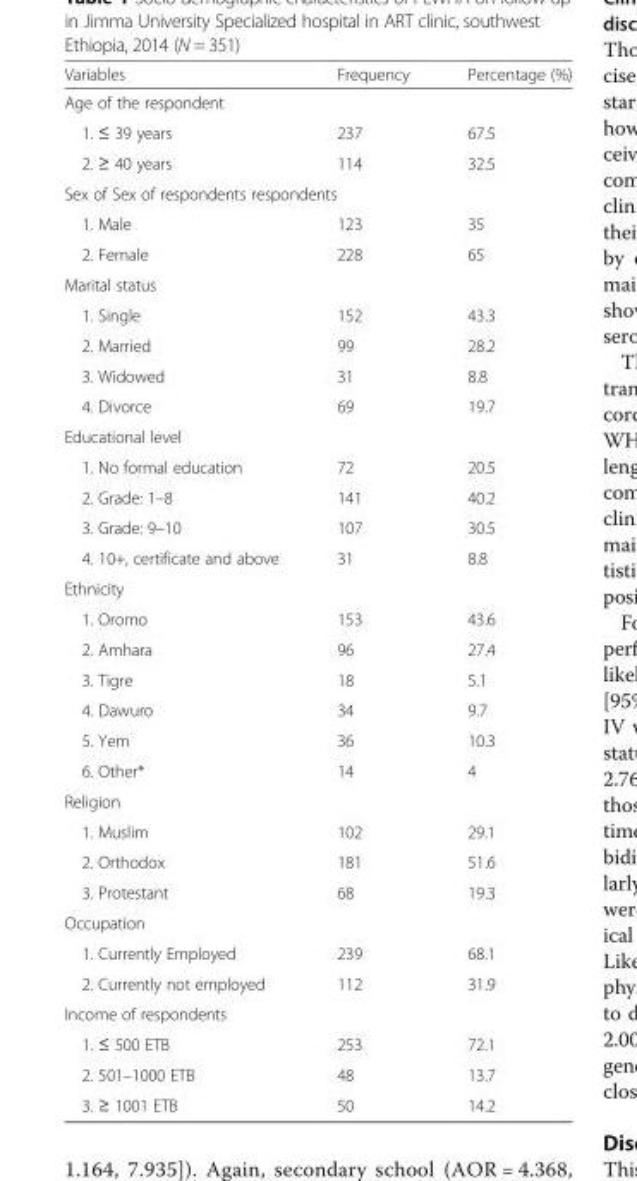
<table><thead><tr><td>Variables</td><td>Frequency</td><td>Percentage (%)</td></tr></thead><tbody><tr><td colspan="3">Age of the respondent</td></tr><tr><td>1. ≤ 39 years</td><td>237</td><td>67.5</td></tr><tr><td>2. ≥ 40 years</td><td>114</td><td>32.5</td></tr><tr><td colspan="3">Sex of Sex of respondents respondents</td></tr><tr><td>1. Male</td><td>123</td><td>35</td></tr><tr><td>2. Female</td><td>228</td><td>65</td></tr><tr><td colspan="3">Marital status</td></tr><tr><td>1. Single</td><td>152</td><td>43.3</td></tr><tr><td>2. Married</td><td>99</td><td>28.2</td></tr><tr><td>3. Widowed</td><td>31</td><td>8.8</td></tr><tr><td>4. Divorce</td><td>69</td><td>19.7</td></tr><tr><td colspan="3">Educational level</td></tr><tr><td>1. No formal education</td><td>72</td><td>20.5</td></tr><tr><td>2. Grade: 1–8</td><td>141</td><td>40.2</td></tr><tr><td>3. Grade: 9–10</td><td>107</td><td>30.5</td></tr><tr><td>4. 10+, certificate and above</td><td>31</td><td>8.8</td></tr><tr><td colspan="3">Ethnicity</td></tr><tr><td>1. Oromo</td><td>153</td><td>43.6</td></tr><tr><td>2. Amhara</td><td>96</td><td>27.4</td></tr><tr><td>3. Tigre</td><td>18</td><td>5.1</td></tr><tr><td>4. Dawuro</td><td>34</td><td>9.7</td></tr><tr><td>5. Yem</td><td>36</td><td>10.3</td></tr><tr><td>6. Other*</td><td>14</td><td>4</td></tr><tr><td colspan="3">Religion</td></tr><tr><td>1. Muslim</td><td>102</td><td>29.1</td></tr><tr><td>2. Orthodox</td><td>181</td><td>51.6</td></tr><tr><td>3. Protestant</td><td>68</td><td>19.3</td></tr><tr><td colspan="3">Occupation</td></tr><tr><td>1. Currently Employed</td><td>239</td><td>68.1</td></tr><tr><td>2. Currently not employed</td><td>112</td><td>31.9</td></tr><tr><td colspan="3">Income of respondents</td></tr><tr><td>1. ≤ 500 ETB</td><td>253</td><td>72.1</td></tr><tr><td>2. 501–1000 ETB</td><td>48</td><td>13.7</td></tr><tr><td>3. ≥ 1001 ETB</td><td>50</td><td>14.2</td></tr></tbody></table>